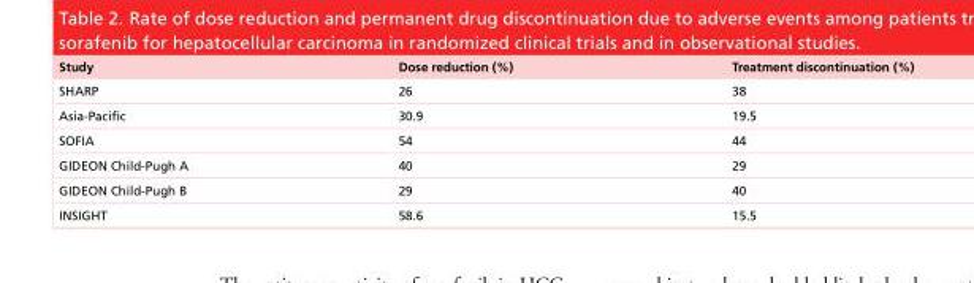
<table><thead><tr><td>Study</td><td>Dose reduction (%)</td><td>Treatment discontinuation (%)</td></tr></thead><tbody><tr><td>SHARP</td><td>26</td><td>38</td></tr><tr><td>Asia-Pacific</td><td>30.9</td><td>19.5</td></tr><tr><td>SOFIA</td><td>54</td><td>44</td></tr><tr><td>GIDEON Child-Pugh A</td><td>40</td><td>29</td></tr><tr><td>GIDEON Child-Pugh B</td><td>29</td><td>40</td></tr><tr><td>INSIGHT</td><td>58.6</td><td>15.5</td></tr></tbody></table>